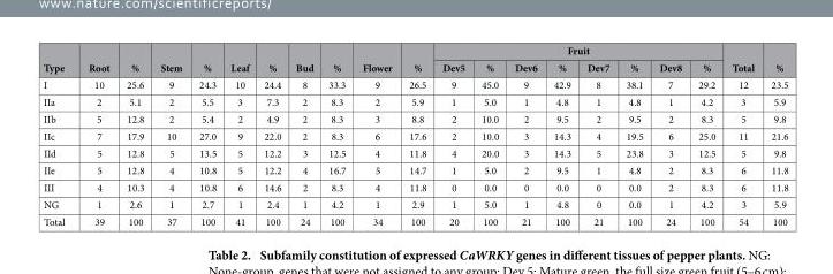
<table><thead><tr><td rowspan="2">Type</td><td rowspan="2">Root</td><td rowspan="2">%</td><td rowspan="2">Stem</td><td rowspan="2">%</td><td rowspan="2">Leaf</td><td rowspan="2">%</td><td rowspan="2">Bud</td><td rowspan="2">%</td><td rowspan="2">Flower</td><td rowspan="2">%</td><td colspan="8">Fruit</td><td rowspan="2">Total</td><td rowspan="2">%</td></tr><tr><td>Dev5</td><td>%</td><td>Dev6</td><td>%</td><td>Dev7</td><td>%</td><td>Dev8</td><td>%</td></tr></thead><tbody><tr><td>I</td><td>10</td><td>25.6</td><td>9</td><td>24.3</td><td>10</td><td>24.4</td><td>8</td><td>33.3</td><td>9</td><td>26.5</td><td>9</td><td>45.0</td><td>9</td><td>42.9</td><td>8</td><td>38.1</td><td>7</td><td>29.2</td><td>12</td><td>23.5</td></tr><tr><td>IIa</td><td>2</td><td>5.1</td><td>2</td><td>5.5</td><td>3</td><td>7.3</td><td>2</td><td>8.3</td><td>2</td><td>5.9</td><td>1</td><td>5.0</td><td>1</td><td>4.8</td><td>1</td><td>4.8</td><td>1</td><td>4.2</td><td>3</td><td>5.9</td></tr><tr><td>IIb</td><td>5</td><td>12.8</td><td>2</td><td>5.4</td><td>2</td><td>4.9</td><td>2</td><td>8.3</td><td>3</td><td>8.8</td><td>2</td><td>10.0</td><td>2</td><td>9.5</td><td>2</td><td>9.5</td><td>2</td><td>8.3</td><td>5</td><td>9.8</td></tr><tr><td>IIc</td><td>7</td><td>17.9</td><td>10</td><td>27.0</td><td>9</td><td>22.0</td><td>2</td><td>8.3</td><td>6</td><td>17.6</td><td>2</td><td>10.0</td><td>3</td><td>14.3</td><td>4</td><td>19.5</td><td>6</td><td>25.0</td><td>11</td><td>21.6</td></tr><tr><td>IId</td><td>5</td><td>12.8</td><td>5</td><td>13.5</td><td>5</td><td>12.2</td><td>3</td><td>12.5</td><td>4</td><td>11.8</td><td>4</td><td>20.0</td><td>3</td><td>14.3</td><td>5</td><td>23.8</td><td>3</td><td>12.5</td><td>5</td><td>9.8</td></tr><tr><td>IIe</td><td>5</td><td>12.8</td><td>4</td><td>10.8</td><td>5</td><td>12.2</td><td>4</td><td>16.7</td><td>5</td><td>14.7</td><td>1</td><td>5.0</td><td>2</td><td>9.5</td><td>1</td><td>4.8</td><td>2</td><td>8.3</td><td>6</td><td>11.8</td></tr><tr><td>III</td><td>4</td><td>10.3</td><td>4</td><td>10.8</td><td>6</td><td>14.6</td><td>2</td><td>8.3</td><td>4</td><td>11.8</td><td>0</td><td>0.0</td><td>0</td><td>0.0</td><td>0</td><td>0.0</td><td>2</td><td>8.3</td><td>6</td><td>11.8</td></tr><tr><td>NG</td><td>1</td><td>2.6</td><td>1</td><td>2.7</td><td>1</td><td>2.4</td><td>1</td><td>4.2</td><td>1</td><td>2.9</td><td>1</td><td>5.0</td><td>1</td><td>4.8</td><td>0</td><td>0.0</td><td>1</td><td>4.2</td><td>3</td><td>5.9</td></tr><tr><td>Total</td><td>39</td><td>100</td><td>37</td><td>100</td><td>41</td><td>100</td><td>24</td><td>100</td><td>34</td><td>100</td><td>20</td><td>100</td><td>21</td><td>100</td><td>21</td><td>100</td><td>24</td><td>100</td><td>54</td><td>100</td></tr></tbody></table>